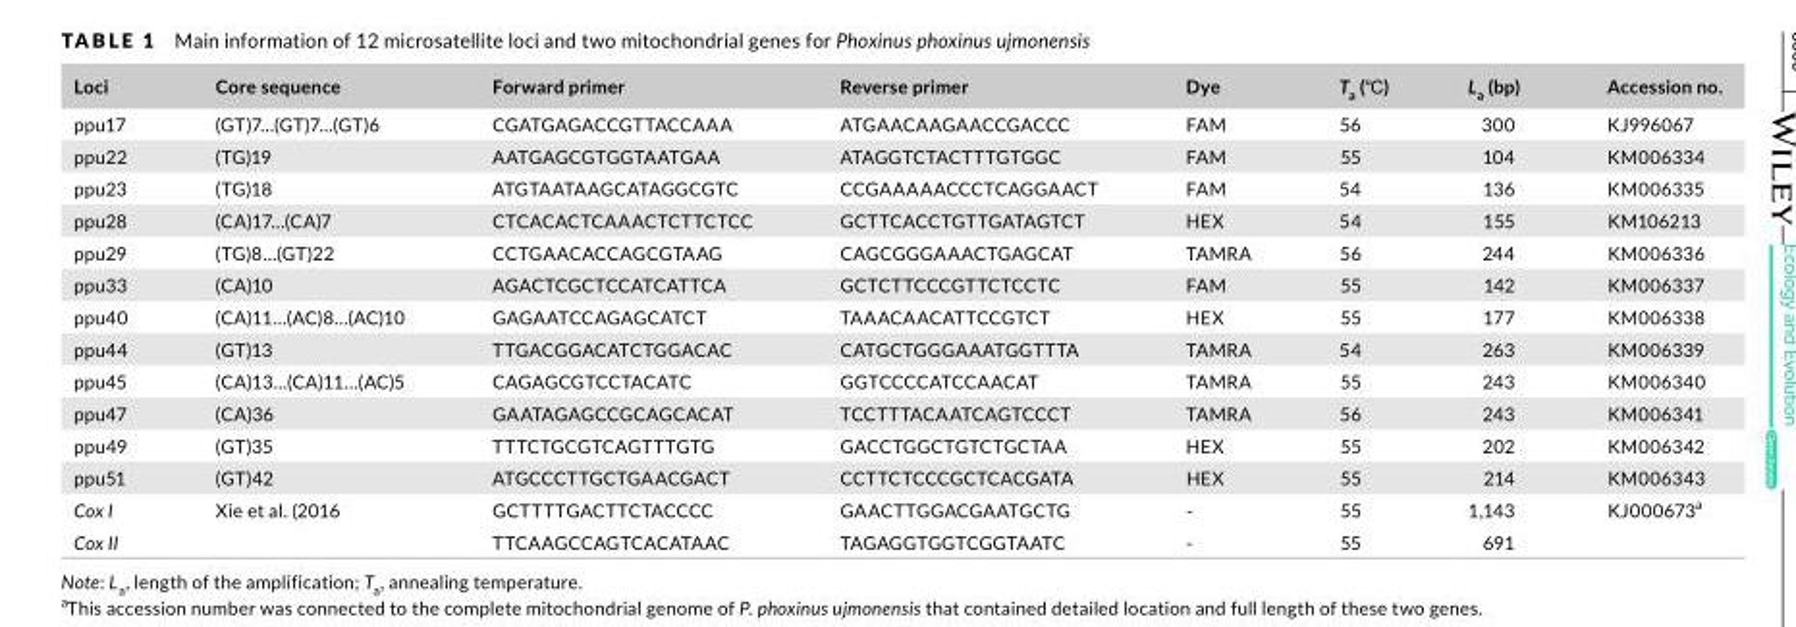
<table><thead><tr><td>Loci</td><td>Core sequence</td><td>Forward primer</td><td>Reverse primer</td><td>Dye</td><td>T<sub>a</sub> (℃)</td><td>L<sub>a</sub> (bp)</td><td>Accession no.</td></tr></thead><tbody><tr><td>ppu17</td><td>(GT)7…(GT)7…(GT)6</td><td>CGATGAGACCGTTACCAAA</td><td>ATGAACAAGAACCGACCC</td><td>FAM</td><td>56</td><td>300</td><td>KJ996067</td></tr><tr><td>ppu22</td><td>(TG)19</td><td>AATGAGCGTGGTAATGAA</td><td>ATAGGTCTACTTTGTGGC</td><td>FAM</td><td>55</td><td>104</td><td>KM006334</td></tr><tr><td>ppu23</td><td>(TG)18</td><td>ATGTAATAAGCATAGGCGTC</td><td>CCGAAAAACCCTCAGGAACT</td><td>FAM</td><td>54</td><td>136</td><td>KM006335</td></tr><tr><td>ppu28</td><td>(CA)17…(CA)7</td><td>CTCACACTCAAACTCTTCTCC</td><td>GCTTCACCTGTTGATAGTCT</td><td>HEX</td><td>54</td><td>155</td><td>KM106213</td></tr><tr><td>ppu29</td><td>(TG)8…(GT)22</td><td>CCTGAACACCAGCGTAAG</td><td>CAGCGGGAAACTGAGCAT</td><td>TAMRA</td><td>56</td><td>244</td><td>KM006336</td></tr><tr><td>ppu33</td><td>(CA)10</td><td>AGACTCGCTCCATCATTCA</td><td>GCTCTTCCCGTTCTCCTC</td><td>FAM</td><td>55</td><td>142</td><td>KM006337</td></tr><tr><td>ppu40</td><td>(CA)11…(AC)8…(AC)10</td><td>GAGAATCCAGAGCATCT</td><td>TAAACAACATTCCGTCT</td><td>HEX</td><td>55</td><td>177</td><td>KM006338</td></tr><tr><td>ppu44</td><td>(GT)13</td><td>TTGACGGACATCTGGACAC</td><td>CATGCTGGGAAATGGTTTA</td><td>TAMRA</td><td>54</td><td>263</td><td>KM006339</td></tr><tr><td>ppu45</td><td>(CA)13…(CA)11…(AC)5</td><td>CAGAGCGTCCTACATC</td><td>GGTCCCCATCCAACAT</td><td>TAMRA</td><td>55</td><td>243</td><td>KM006340</td></tr><tr><td>ppu47</td><td>(CA)36</td><td>GAATAGAGCCGCAGCACAT</td><td>TCCTTTACAATCAGTCCCT</td><td>TAMRA</td><td>56</td><td>243</td><td>KM006341</td></tr><tr><td>ppu49</td><td>(GT)35</td><td>TTTCTGCGTCAGTTTGTG</td><td>GACCTGGCTGTCTGCTAA</td><td>HEX</td><td>55</td><td>202</td><td>KM006342</td></tr><tr><td>ppu51</td><td>(GT)42</td><td>ATGCCCTTGCTGAACGACT</td><td>CCTTCTCCCGCTCACGATA</td><td>HEX</td><td>55</td><td>214</td><td>KM006343</td></tr><tr><td>Cox I</td><td rowspan="2">Xie et al. (2016</td><td>GCTTTTGACTTCTACCCC</td><td>GAACTTGGACGAATGCTG</td><td>‐</td><td>55</td><td>1,143</td><td rowspan="2">KJ000673a</td></tr><tr><td>Cox II</td><td>TTCAAGCCAGTCACATAAC</td><td>TAGAGGTGGTCGGTAATC</td><td>‐</td><td>55</td><td>691</td></tr></tbody></table>